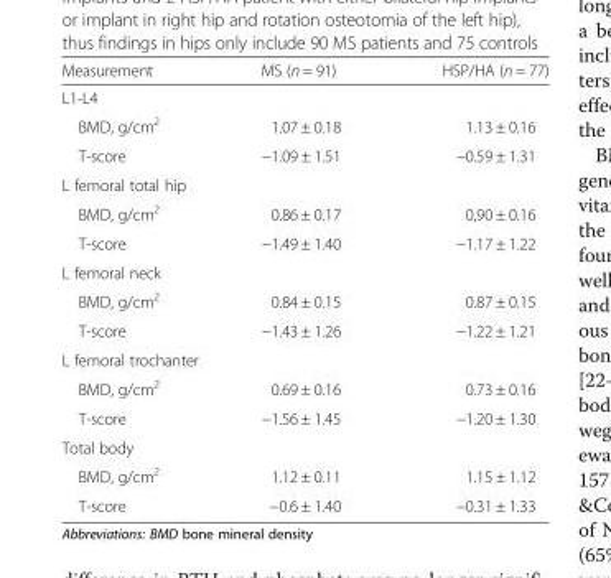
<table><thead><tr><td>Measurement</td><td>MS (n = 91)</td><td>HSP/HA (n = 77)</td></tr></thead><tbody><tr><td colspan="3">L1-L4</td></tr><tr><td>BMD, g/cm<sup>2</sup></td><td>1.07 ± 0.18</td><td>1.13 ± 0.16</td></tr><tr><td>T-score</td><td>−1.09 ± 1.51</td><td>−0.59 ± 1.31</td></tr><tr><td colspan="3">L femoral total hip</td></tr><tr><td>BMD, g/cm<sup>2</sup></td><td>0.86 ± 0.17</td><td>0,90 ± 0.16</td></tr><tr><td>T-score</td><td>−1.49 ± 1.40</td><td>−1.17 ± 1.22</td></tr><tr><td colspan="3">L femoral neck</td></tr><tr><td>BMD, g/cm<sup>2</sup></td><td>0.84 ± 0.15</td><td>0.87 ± 0.15</td></tr><tr><td>T-score</td><td>−1.43 ± 1.26</td><td>−1.22 ± 1.21</td></tr><tr><td colspan="3">L femoral trochanter</td></tr><tr><td>BMD, g/cm<sup>2</sup></td><td>0.69 ± 0.16</td><td>0.73 ± 0.16</td></tr><tr><td>T-score</td><td>−1.56 ± 1.45</td><td>−1.20 ± 1.30</td></tr><tr><td colspan="3">Total body</td></tr><tr><td>BMD, g/cm<sup>2</sup></td><td>1.12 ± 0.11</td><td>1.15 ± 1.12</td></tr><tr><td>T-score</td><td>−0.6 ± 1.40</td><td>−0.31 ± 1.33</td></tr></tbody></table>